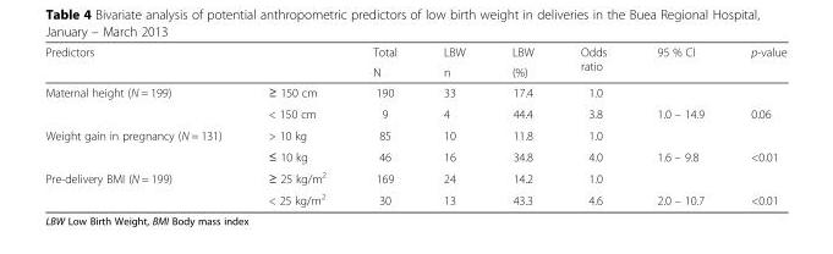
<table><thead><tr><td rowspan="2">Predictors</td><td rowspan="2"></td><td rowspan="2">Total N</td><td rowspan="2">LBW n</td><td rowspan="2">LBW (%)</td><td rowspan="2">Odds ratio</td><td rowspan="2">95 % CI</td><td rowspan="2">p-value</td></tr><tr></tr></thead><tbody><tr><td rowspan="2">Maternal height (N = 199)</td><td>≥ 150 cm</td><td>190</td><td>33</td><td>17.4</td><td>1.0</td><td></td><td></td></tr><tr><td>&lt; 150 cm</td><td>9</td><td>4</td><td>44.4</td><td>3.8</td><td>1.0 – 14.9</td><td>0.06</td></tr><tr><td rowspan="2">Weight gain in pregnancy (N = 131)</td><td>&gt; 10 kg</td><td>85</td><td>10</td><td>11.8</td><td>1.0</td><td></td><td></td></tr><tr><td>≤ 10 kg</td><td>46</td><td>16</td><td>34.8</td><td>4.0</td><td>1.6 – 9.8</td><td>&lt;0.01</td></tr><tr><td rowspan="2">Pre-delivery BMI (N = 199)</td><td>≥ 25 kg/m<sup>2</sup></td><td>169</td><td>24</td><td>14.2</td><td>1.0</td><td></td><td></td></tr><tr><td>&lt; 25 kg/m<sup>2</sup></td><td>30</td><td>13</td><td>43.3</td><td>4.6</td><td>2.0 – 10.7</td><td>&lt;0.01</td></tr></tbody></table>